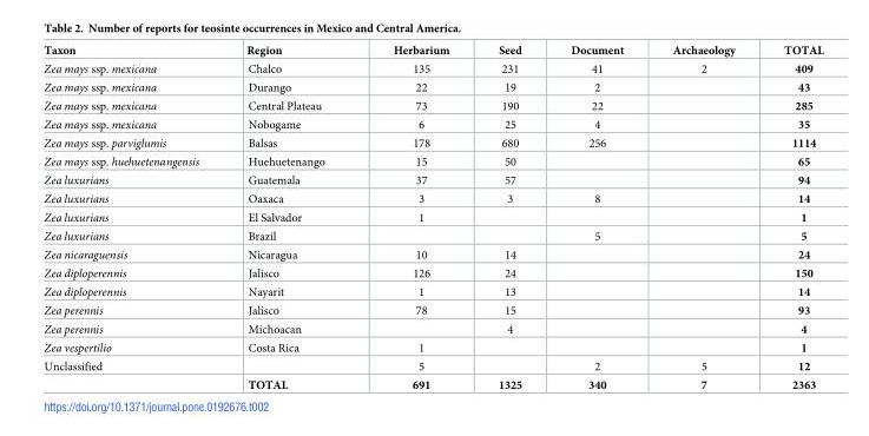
<table><thead><tr><td>Taxon</td><td>Region</td><td>Herbarium</td><td>Seed</td><td>Document</td><td>Archaeology</td><td>TOTAL</td></tr></thead><tbody><tr><td>Zea mays ssp. mexicana</td><td>Chalco</td><td>135</td><td>231</td><td>41</td><td>2</td><td>409</td></tr><tr><td>Zea mays ssp. mexicana</td><td>Durango</td><td>22</td><td>19</td><td>2</td><td></td><td>43</td></tr><tr><td>Zea mays ssp. mexicana</td><td>Central Plateau</td><td>73</td><td>190</td><td>22</td><td></td><td>285</td></tr><tr><td>Zea mays ssp. mexicana</td><td>Nobogame</td><td>6</td><td>25</td><td>4</td><td></td><td>35</td></tr><tr><td>Zea mays ssp. parviglumis</td><td>Balsas</td><td>178</td><td>680</td><td>256</td><td></td><td>1114</td></tr><tr><td>Zea mays ssp. huehuetenangensis</td><td>Huehuetenango</td><td>15</td><td>50</td><td></td><td></td><td>65</td></tr><tr><td>Zea luxurians</td><td>Guatemala</td><td>37</td><td>57</td><td></td><td></td><td>94</td></tr><tr><td>Zea luxurians</td><td>Oaxaca</td><td>3</td><td>3</td><td>8</td><td></td><td>14</td></tr><tr><td>Zea luxurians</td><td>El Salvador</td><td>1</td><td></td><td></td><td></td><td>1</td></tr><tr><td>Zea luxurians</td><td>Brazil</td><td></td><td></td><td>5</td><td></td><td>5</td></tr><tr><td>Zea nicaraguensis</td><td>Nicaragua</td><td>10</td><td>14</td><td></td><td></td><td>24</td></tr><tr><td>Zea diploperennis</td><td>Jalisco</td><td>126</td><td>24</td><td></td><td></td><td>150</td></tr><tr><td>Zea diploperennis</td><td>Nayarit</td><td>1</td><td>13</td><td></td><td></td><td>14</td></tr><tr><td>Zea perennis</td><td>Jalisco</td><td>78</td><td>15</td><td></td><td></td><td>93</td></tr><tr><td>Zea perennis</td><td>Michoacan</td><td></td><td>4</td><td></td><td></td><td>4</td></tr><tr><td>Zea vespertilio</td><td>Costa Rica</td><td>1</td><td></td><td></td><td></td><td>1</td></tr><tr><td rowspan="2">Unclassified</td><td></td><td>5</td><td></td><td>2</td><td>5</td><td>12</td></tr><tr><td>TOTAL</td><td>691</td><td>1325</td><td>340</td><td>7</td><td>2363</td></tr></tbody></table>